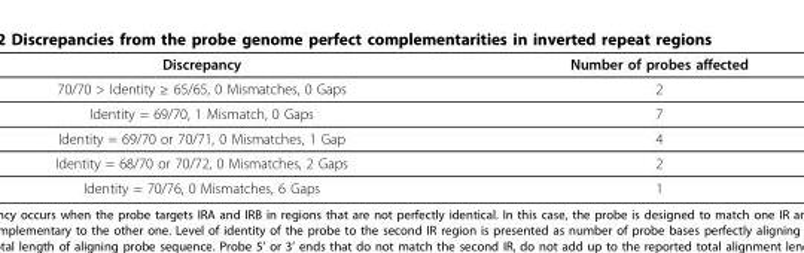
<table><thead><tr><td>Discrepancy</td><td>Number of probes affected</td></tr></thead><tbody><tr><td>70/70 &gt; Identity ≥ 65/65, 0 Mismatches, 0 Gaps</td><td>2</td></tr><tr><td>Identity = 69/70, 1 Mismatch, 0 Gaps</td><td>7</td></tr><tr><td>Identity = 69/70 or 70/71, 0 Mismatches, 1 Gap</td><td>4</td></tr><tr><td>Identity = 68/70 or 70/72, 0 Mismatches, 2 Gaps</td><td>2</td></tr><tr><td>Identity = 70/76, 0 Mismatches, 6 Gaps</td><td>1</td></tr></tbody></table>